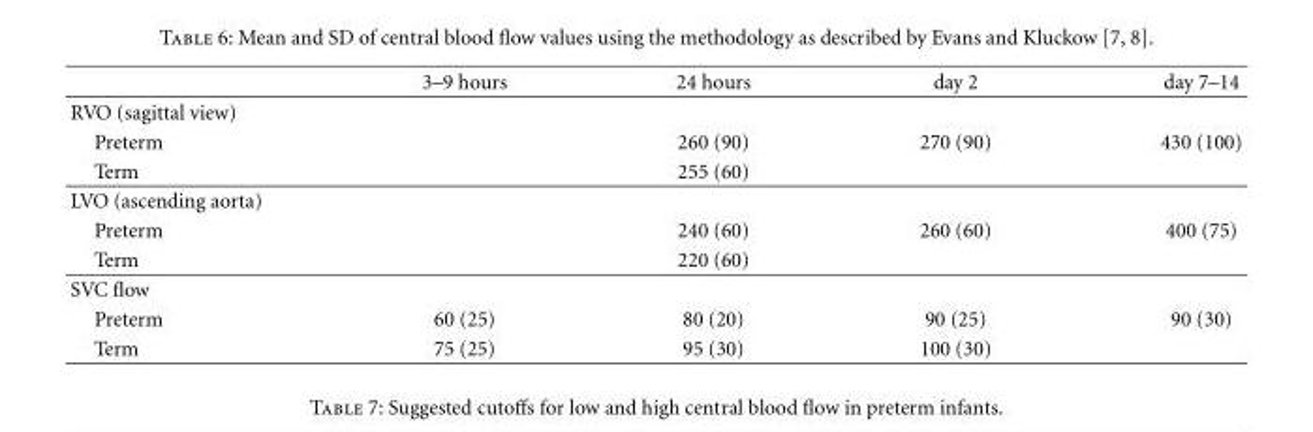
<table><thead><tr><td></td><td>3–9 hours</td><td>24 hours</td><td>day 2</td><td>day 7–14</td></tr></thead><tbody><tr><td colspan="5">RVO (sagittal view)</td></tr><tr><td>Preterm</td><td></td><td>260 (90)</td><td>270 (90)</td><td>430 (100)</td></tr><tr><td>Term</td><td></td><td>255 (60)</td><td></td><td></td></tr><tr><td colspan="5">LVO (ascending aorta)</td></tr><tr><td>Preterm</td><td></td><td>240 (60)</td><td>260 (60)</td><td>400 (75)</td></tr><tr><td>Term</td><td></td><td>220 (60)</td><td></td><td></td></tr><tr><td colspan="5">SVC flow</td></tr><tr><td>Preterm</td><td>60 (25)</td><td>80 (20)</td><td>90 (25)</td><td>90 (30)</td></tr><tr><td>Term</td><td>75 (25)</td><td>95 (30)</td><td>100 (30)</td><td></td></tr></tbody></table>